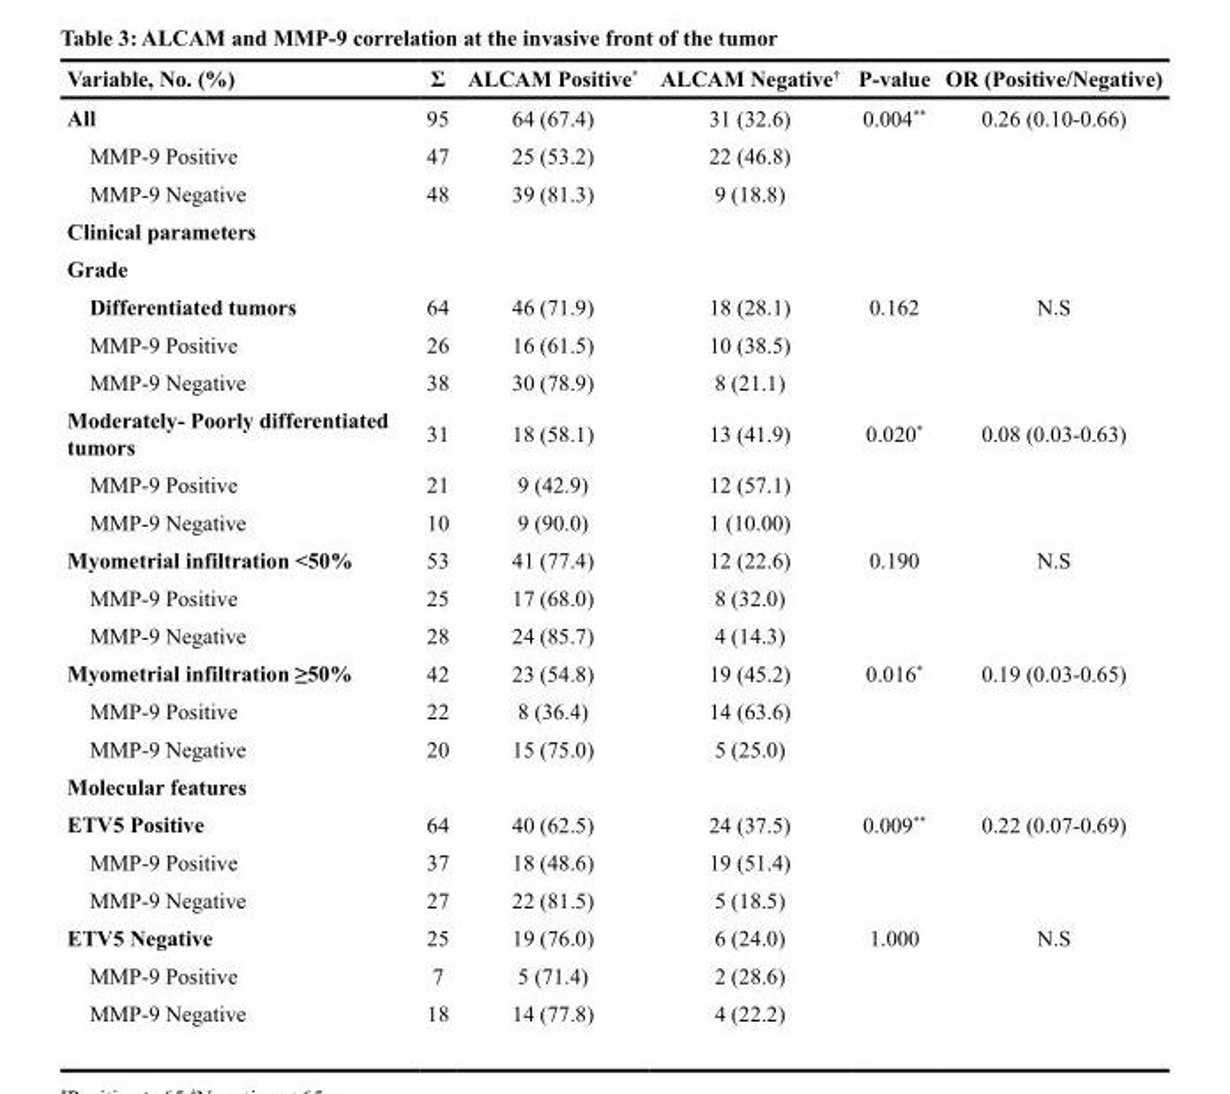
<table><thead><tr><td>Variable, No. (%)</td><td>Σ</td><td>ALCAM Positive*</td><td>ALCAM Negative<sup>†</sup></td><td>P-value</td><td>OR (Positive/Negative)</td></tr></thead><tbody><tr><td>All</td><td>95</td><td>64 (67.4)</td><td>31 (32.6)</td><td>0.004**</td><td>0.26 (0.10-0.66)</td></tr><tr><td>MMP-9 Positive</td><td>47</td><td>25 (53.2)</td><td>22 (46.8)</td><td></td><td></td></tr><tr><td>MMP-9 Negative</td><td>48</td><td>39 (81.3)</td><td>9 (18.8)</td><td></td><td></td></tr><tr><td colspan="6">Clinical parameters</td></tr><tr><td colspan="6">Grade</td></tr><tr><td>Differentiated tumors</td><td>64</td><td>46 (71.9)</td><td>18 (28.1)</td><td>0.162</td><td>N.S</td></tr><tr><td>MMP-9 Positive</td><td>26</td><td>16 (61.5)</td><td>10 (38.5)</td><td></td><td></td></tr><tr><td>MMP-9 Negative</td><td>38</td><td>30 (78.9)</td><td>8 (21.1)</td><td></td><td></td></tr><tr><td>Moderately- Poorly differentiated tumors</td><td>31</td><td>18 (58.1)</td><td>13 (41.9)</td><td>0.020*</td><td>0.08 (0.03-0.63)</td></tr><tr><td>MMP-9 Positive</td><td>21</td><td>9 (42.9)</td><td>12 (57.1)</td><td></td><td></td></tr><tr><td>MMP-9 Negative</td><td>10</td><td>9 (90.0)</td><td>1 (10.00)</td><td></td><td></td></tr><tr><td>Myometrial infiltration &lt;50%</td><td>53</td><td>41 (77.4)</td><td>12 (22.6)</td><td>0.190</td><td>N.S</td></tr><tr><td>MMP-9 Positive</td><td>25</td><td>17 (68.0)</td><td>8 (32.0)</td><td></td><td></td></tr><tr><td>MMP-9 Negative</td><td>28</td><td>24 (85.7)</td><td>4 (14.3)</td><td></td><td></td></tr><tr><td>Myometrial infiltration ≥50%</td><td>42</td><td>23 (54.8)</td><td>19 (45.2)</td><td>0.016*</td><td>0.19 (0.03-0.65)</td></tr><tr><td>MMP-9 Positive</td><td>22</td><td>8 (36.4)</td><td>14 (63.6)</td><td></td><td></td></tr><tr><td>MMP-9 Negative</td><td>20</td><td>15 (75.0)</td><td>5 (25.0)</td><td></td><td></td></tr><tr><td colspan="6">Molecular features</td></tr><tr><td>ETV5 Positive</td><td>64</td><td>40 (62.5)</td><td>24 (37.5)</td><td>0.009**</td><td>0.22 (0.07-0.69)</td></tr><tr><td>MMP-9 Positive</td><td>37</td><td>18 (48.6)</td><td>19 (51.4)</td><td></td><td></td></tr><tr><td>MMP-9 Negative</td><td>27</td><td>22 (81.5)</td><td>5 (18.5)</td><td></td><td></td></tr><tr><td>ETV5 Negative</td><td>25</td><td>19 (76.0)</td><td>6 (24.0)</td><td>1.000</td><td>N.S</td></tr><tr><td>MMP-9 Positive</td><td>7</td><td>5 (71.4)</td><td>2 (28.6)</td><td></td><td></td></tr><tr><td>MMP-9 Negative</td><td>18</td><td>14 (77.8)</td><td>4 (22.2)</td><td></td><td></td></tr></tbody></table>